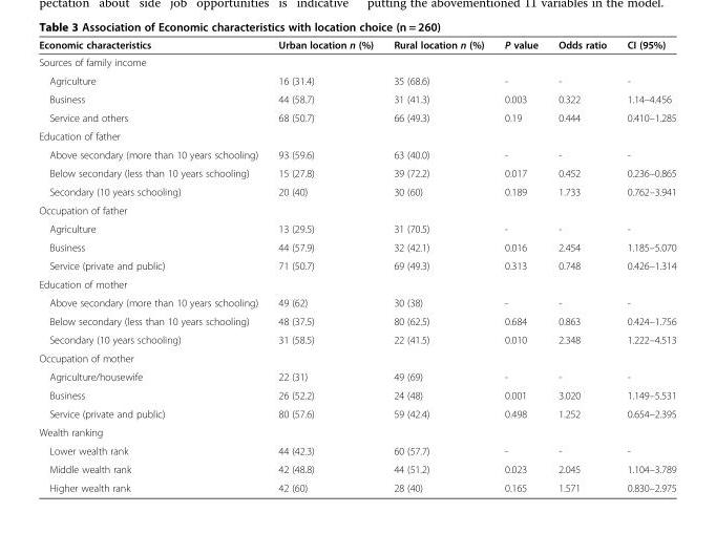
<table><thead><tr><td>Economic characteristics</td><td>Urban location n (%)</td><td>Rural location n (%)</td><td>P value</td><td>Odds ratio</td><td>CI (95%)</td></tr></thead><tbody><tr><td colspan="6">Sources of family income</td></tr><tr><td>Agriculture</td><td>16 (31.4)</td><td>35 (68.6)</td><td>-</td><td>-</td><td>-</td></tr><tr><td>Business</td><td>44 (58.7)</td><td>31 (41.3)</td><td>0.003</td><td>0.322</td><td>1.14–4.456</td></tr><tr><td>Service and others</td><td>68 (50.7)</td><td>66 (49.3)</td><td>0.19</td><td>0.444</td><td>0.410–1.285</td></tr><tr><td colspan="6">Education of father</td></tr><tr><td>Above secondary (more than 10 years schooling)</td><td>93 (59.6)</td><td>63 (40.0)</td><td>-</td><td>-</td><td>-</td></tr><tr><td>Below secondary (less than 10 years schooling)</td><td>15 (27.8)</td><td>39 (72.2)</td><td>0.017</td><td>0.452</td><td>0.236–0.865</td></tr><tr><td>Secondary (10 years schooling)</td><td>20 (40)</td><td>30 (60)</td><td>0.189</td><td>1.733</td><td>0.762–3.941</td></tr><tr><td colspan="6">Occupation of father</td></tr><tr><td>Agriculture</td><td>13 (29.5)</td><td>31 (70.5)</td><td>-</td><td>-</td><td>-</td></tr><tr><td>Business</td><td>44 (57.9)</td><td>32 (42.1)</td><td>0.016</td><td>2.454</td><td>1.185–5.070</td></tr><tr><td>Service (private and public)</td><td>71 (50.7)</td><td>69 (49.3)</td><td>0.313</td><td>0.748</td><td>0.426–1.314</td></tr><tr><td colspan="6">Education of mother</td></tr><tr><td>Above secondary (more than 10 years schooling)</td><td>49 (62)</td><td>30 (38)</td><td>-</td><td>-</td><td>-</td></tr><tr><td>Below secondary (less than 10 years schooling)</td><td>48 (37.5)</td><td>80 (62.5)</td><td>0.684</td><td>0.863</td><td>0.424–1.756</td></tr><tr><td>Secondary (10 years schooling)</td><td>31 (58.5)</td><td>22 (41.5)</td><td>0.010</td><td>2.348</td><td>1.222–4.513</td></tr><tr><td colspan="6">Occupation of mother</td></tr><tr><td>Agriculture/housewife</td><td>22 (31)</td><td>49 (69)</td><td>-</td><td>-</td><td>-</td></tr><tr><td>Business</td><td>26 (52.2)</td><td>24 (48)</td><td>0.001</td><td>3.020</td><td>1.149–5.531</td></tr><tr><td>Service (private and public)</td><td>80 (57.6)</td><td>59 (42.4)</td><td>0.498</td><td>1.252</td><td>0.654–2.395</td></tr><tr><td colspan="6">Wealth ranking</td></tr><tr><td>Lower wealth rank</td><td>44 (42.3)</td><td>60 (57.7)</td><td>-</td><td>-</td><td>-</td></tr><tr><td>Middle wealth rank</td><td>42 (48.8)</td><td>44 (51.2)</td><td>0.023</td><td>2.045</td><td>1.104–3.789</td></tr><tr><td>Higher wealth rank</td><td>42 (60)</td><td>28 (40)</td><td>0.165</td><td>1.571</td><td>0.830–2.975</td></tr></tbody></table>